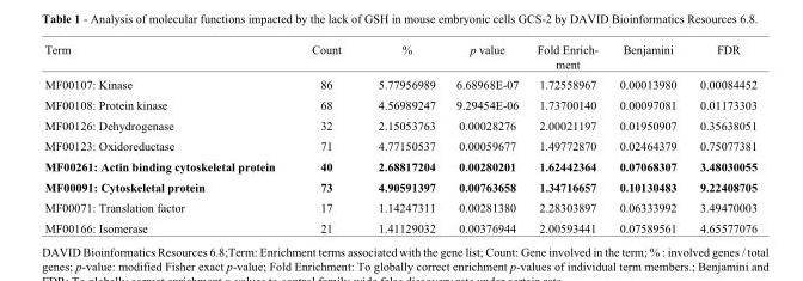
<table><thead><tr><td>Term</td><td>Count</td><td>%</td><td>p value</td><td>Fold Enrich- ment</td><td>Benjamini</td><td>FDR</td></tr></thead><tbody><tr><td>MF00107: Kinase</td><td>86</td><td>5.77956989</td><td>6.68968E-07</td><td>1.72558967</td><td>0.00013980</td><td>0.00084452</td></tr><tr><td>MF00108: Protein kinase</td><td>68</td><td>4.56989247</td><td>9.29454E-06</td><td>1.73700140</td><td>0.00097081</td><td>0.01173303</td></tr><tr><td>MF00126: Dehydrogenase</td><td>32</td><td>2.15053763</td><td>0.00028276</td><td>2.00021197</td><td>0.01950907</td><td>0.35638051</td></tr><tr><td>MF00123: Oxidoreductase</td><td>71</td><td>4.77150537</td><td>0.00059677</td><td>1.49772870</td><td>0.02464379</td><td>0.75077381</td></tr><tr><td>MF00261: Actin binding cytoskeletal protein</td><td>40</td><td>2.68817204</td><td>0.00280201</td><td>1.62442364</td><td>0.07068307</td><td>3.48030055</td></tr><tr><td>MF00091: Cytoskeletal protein</td><td>73</td><td>4.90591397</td><td>0.00763658</td><td>1.34716657</td><td>0.10130483</td><td>9.22408705</td></tr><tr><td>MF00071: Translation factor</td><td>17</td><td>1.14247311</td><td>0.00281380</td><td>2.28303897</td><td>0.06333992</td><td>3.49470003</td></tr><tr><td>MF00166: Isomerase</td><td>21</td><td>1.41129032</td><td>0.00376944</td><td>2.00593441</td><td>0.07589561</td><td>4.65577076</td></tr></tbody></table>